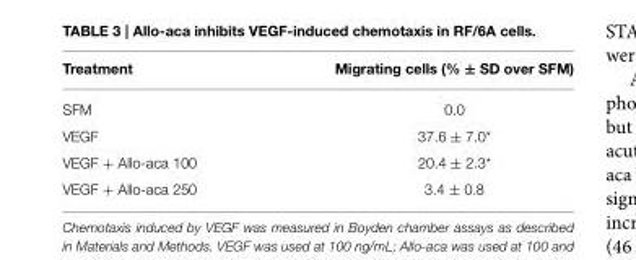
<table><thead><tr><td>Treatment</td><td>Migrating cells (% ± SD over SFM)</td></tr></thead><tbody><tr><td>SFM</td><td>0.0</td></tr><tr><td>VEGF</td><td>37.6 ± 7.0*</td></tr><tr><td>VEGF + Allo-aca 100</td><td>20.4 ± 2.3*</td></tr><tr><td>VEGF + Allo-aca 250</td><td>3.4 ± 0.8</td></tr></tbody></table>